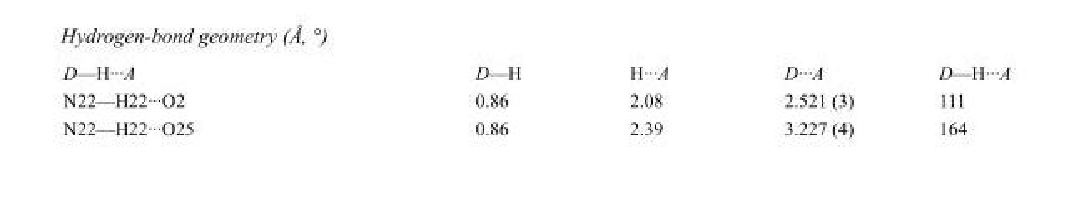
<table><tbody><tr><td>D—H···A</td><td>D—H</td><td>H···A</td><td>D···A</td><td>D—H···A</td></tr><tr><td>N22—H22···O2</td><td>0.86</td><td>2.08</td><td>2.521 (3)</td><td>111</td></tr><tr><td>N22—H22···O25</td><td>0.86</td><td>2.39</td><td>3.227 (4)</td><td>164</td></tr></tbody></table>